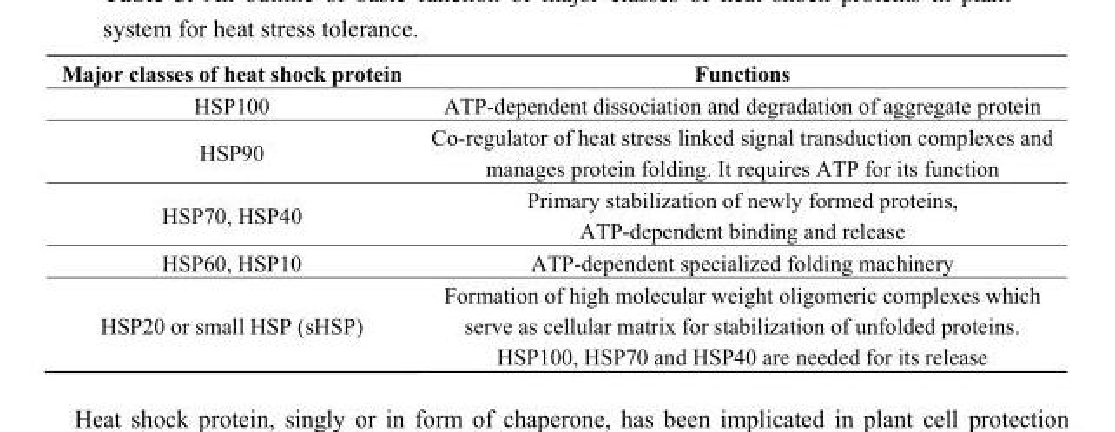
<table><thead><tr><td>Major classes of heat shock protein</td><td>Functions</td></tr></thead><tbody><tr><td>HSP100</td><td>ATP-dependent dissociation and degradation of aggregate protein</td></tr><tr><td>HSP90</td><td>Co-regulator of heat stress linked signal transduction complexes and manages protein folding. It requires ATP for its function</td></tr><tr><td>HSP70, HSP40</td><td>Primary stabilization of newly formed proteins, ATP-dependent binding and release</td></tr><tr><td>HSP60, HSP10</td><td>ATP-dependent specialized folding machinery</td></tr><tr><td>HSP20 or small HSP (sHSP)</td><td>Formation of high molecular weight oligomeric complexes which serve as cellular matrix for stabilization of unfolded proteins. HSP100, HSP70 and HSP40 are needed for its release</td></tr></tbody></table>